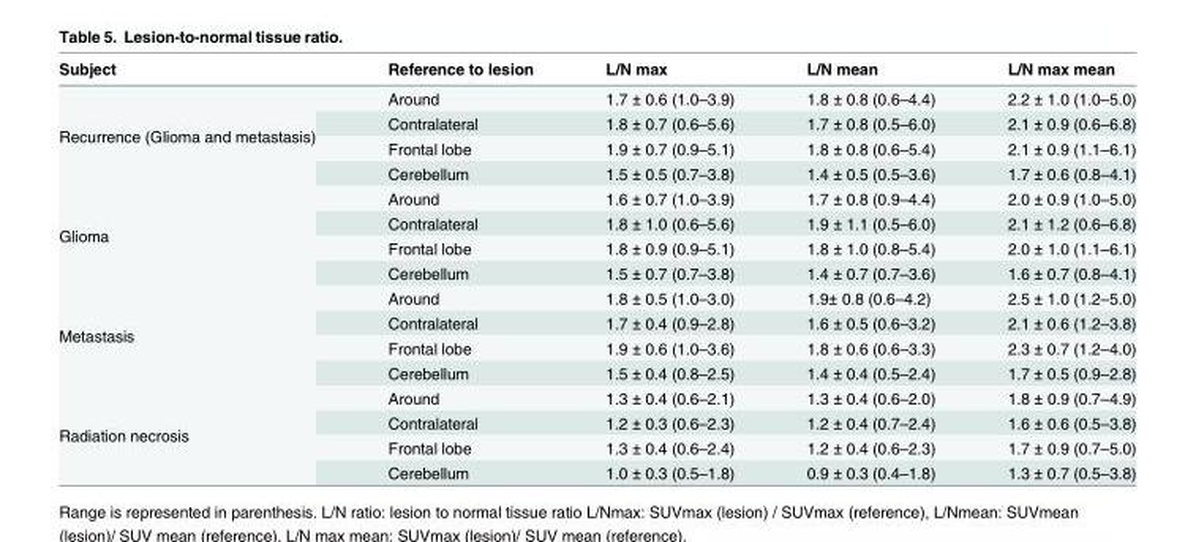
<table><thead><tr><td>Subject</td><td>Reference to lesion</td><td>L/N max</td><td>L/N mean</td><td>L/N max mean</td></tr></thead><tbody><tr><td rowspan="4">Recurrence (Glioma and metastasis)</td><td>Around</td><td>1.7 ± 0.6 (1.0–3.9)</td><td>1.8 ± 0.8 (0.6–4.4)</td><td>2.2 ± 1.0 (1.0–5.0)</td></tr><tr><td>Contralateral</td><td>1.8 ± 0.7 (0.6–5.6)</td><td>1.7 ± 0.8 (0.5–6.0)</td><td>2.1 ± 0.9 (0.6–6.8)</td></tr><tr><td>Frontal lobe</td><td>1.9 ± 0.7 (0.9–5.1)</td><td>1.8 ± 0.8 (0.6–5.4)</td><td>2.1 ± 0.9 (1.1–6.1)</td></tr><tr><td>Cerebellum</td><td>1.5 ± 0.5 (0.7–3.8)</td><td>1.4 ± 0.5 (0.5–3.6)</td><td>1.7 ± 0.6 (0.8–4.1)</td></tr><tr><td rowspan="4">Glioma</td><td>Around</td><td>1.6 ± 0.7 (1.0–3.9)</td><td>1.7 ± 0.8 (0.9–4.4)</td><td>2.0 ± 0.9 (1.0–5.0)</td></tr><tr><td>Contralateral</td><td>1.8 ± 1.0 (0.6–5.6)</td><td>1.9 ± 1.1 (0.5–6.0)</td><td>2.1 ± 1.2 (0.6–6.8)</td></tr><tr><td>Frontal lobe</td><td>1.8 ± 0.9 (0.9–5.1)</td><td>1.8 ± 1.0 (0.8–5.4)</td><td>2.0 ± 1.0 (1.1–6.1)</td></tr><tr><td>Cerebellum</td><td>1.5 ± 0.7 (0.7–3.8)</td><td>1.4 ± 0.7 (0.7–3.6)</td><td>1.6 ± 0.7 (0.8–4.1)</td></tr><tr><td rowspan="4">Metastasis</td><td>Around</td><td>1.8 ± 0.5 (1.0–3.0)</td><td>1.9± 0.8 (0.6–4.2)</td><td>2.5 ± 1.0 (1.2–5.0)</td></tr><tr><td>Contralateral</td><td>1.7 ± 0.4 (0.9–2.8)</td><td>1.6 ± 0.5 (0.6–3.2)</td><td>2.1 ± 0.6 (1.2–3.8)</td></tr><tr><td>Frontal lobe</td><td>1.9 ± 0.6 (1.0–3.6)</td><td>1.8 ± 0.6 (0.6–3.3)</td><td>2.3 ± 0.7 (1.2–4.0)</td></tr><tr><td>Cerebellum</td><td>1.5 ± 0.4 (0.8–2.5)</td><td>1.4 ± 0.4 (0.5–2.4)</td><td>1.7 ± 0.5 (0.9–2.8)</td></tr><tr><td rowspan="4">Radiation necrosis</td><td>Around</td><td>1.3 ± 0.4 (0.6–2.1)</td><td>1.3 ± 0.4 (0.6–2.0)</td><td>1.8 ± 0.9 (0.7–4.9)</td></tr><tr><td>Contralateral</td><td>1.2 ± 0.3 (0.6–2.3)</td><td>1.2 ± 0.4 (0.7–2.4)</td><td>1.6 ± 0.6 (0.5–3.8)</td></tr><tr><td>Frontal lobe</td><td>1.3 ± 0.4 (0.6–2.4)</td><td>1.2 ± 0.4 (0.6–2.3)</td><td>1.7 ± 0.9 (0.7–5.0)</td></tr><tr><td>Cerebellum</td><td>1.0 ± 0.3 (0.5–1.8)</td><td>0.9 ± 0.3 (0.4–1.8)</td><td>1.3 ± 0.7 (0.5–3.8)</td></tr></tbody></table>